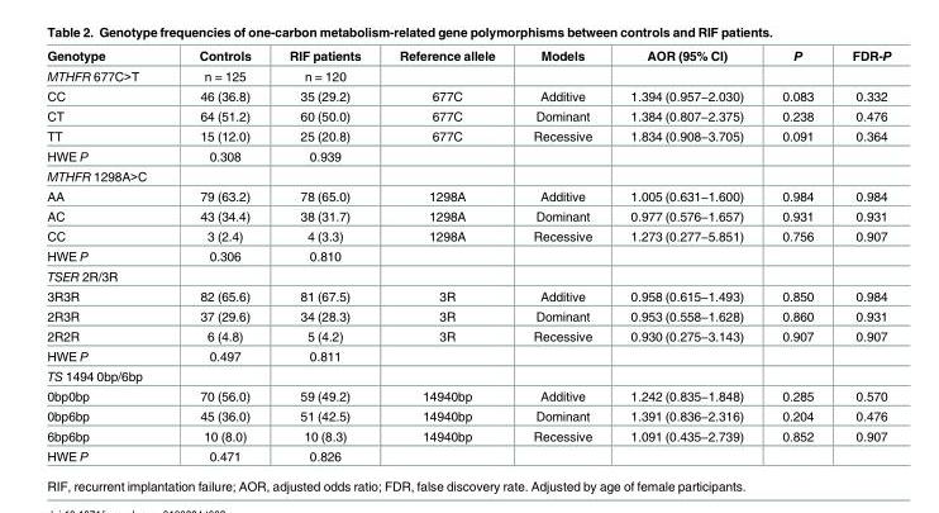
<table><thead><tr><td>Genotype</td><td>Controls</td><td>RIF patients</td><td>Reference allele</td><td>Models</td><td>AOR (95% CI)</td><td>P</td><td>FDR-P</td></tr></thead><tbody><tr><td>MTHFR 677C&gt;T</td><td>n = 125</td><td>n = 120</td><td></td><td></td><td></td><td></td><td></td></tr><tr><td>CC</td><td>46 (36.8)</td><td>35 (29.2)</td><td>677C</td><td>Additive</td><td>1.394 (0.957―2.030)</td><td>0.083</td><td>0.332</td></tr><tr><td>CT</td><td>64 (51.2)</td><td>60 (50.0)</td><td>677C</td><td>Dominant</td><td>1.384 (0.807―2.375)</td><td>0.238</td><td>0.476</td></tr><tr><td>TT</td><td>15 (12.0)</td><td>25 (20.8)</td><td>677C</td><td>Recessive</td><td>1.834 (0.908―3.705)</td><td>0.091</td><td>0.364</td></tr><tr><td>HWE P</td><td>0.308</td><td>0.939</td><td></td><td></td><td></td><td></td><td></td></tr><tr><td colspan="8">MTHFR 1298A&gt;C</td></tr><tr><td>AA</td><td>79 (63.2)</td><td>78 (65.0)</td><td>1298A</td><td>Additive</td><td>1.005 (0.631―1.600)</td><td>0.984</td><td>0.984</td></tr><tr><td>AC</td><td>43 (34.4)</td><td>38 (31.7)</td><td>1298A</td><td>Dominant</td><td>0.977 (0.576―1.657)</td><td>0.931</td><td>0.931</td></tr><tr><td>CC</td><td>3 (2.4)</td><td>4 (3.3)</td><td>1298A</td><td>Recessive</td><td>1.273 (0.277―5.851)</td><td>0.756</td><td>0.907</td></tr><tr><td>HWE P</td><td>0.306</td><td>0.810</td><td></td><td></td><td></td><td></td><td></td></tr><tr><td colspan="8">TSER 2R/3R</td></tr><tr><td>3R3R</td><td>82 (65.6)</td><td>81 (67.5)</td><td>3R</td><td>Additive</td><td>0.958 (0.615―1.493)</td><td>0.850</td><td>0.984</td></tr><tr><td>2R3R</td><td>37 (29.6)</td><td>34 (28.3)</td><td>3R</td><td>Dominant</td><td>0.953 (0.558―1.628)</td><td>0.860</td><td>0.931</td></tr><tr><td>2R2R</td><td>6 (4.8)</td><td>5 (4.2)</td><td>3R</td><td>Recessive</td><td>0.930 (0.275―3.143)</td><td>0.907</td><td>0.907</td></tr><tr><td>HWE P</td><td>0.497</td><td>0.811</td><td></td><td></td><td></td><td></td><td></td></tr><tr><td colspan="8">TS 1494 0bp/6bp</td></tr><tr><td>0bp0bp</td><td>70 (56.0)</td><td>59 (49.2)</td><td>14940bp</td><td>Additive</td><td>1.242 (0.835―1.848)</td><td>0.285</td><td>0.570</td></tr><tr><td>0bp6bp</td><td>45 (36.0)</td><td>51 (42.5)</td><td>14940bp</td><td>Dominant</td><td>1.391 (0.836―2.316)</td><td>0.204</td><td>0.476</td></tr><tr><td>6bp6bp</td><td>10 (8.0)</td><td>10 (8.3)</td><td>14940bp</td><td>Recessive</td><td>1.091 (0.435―2.739)</td><td>0.852</td><td>0.907</td></tr><tr><td>HWE P</td><td>0.471</td><td>0.826</td><td></td><td></td><td></td><td></td><td></td></tr></tbody></table>